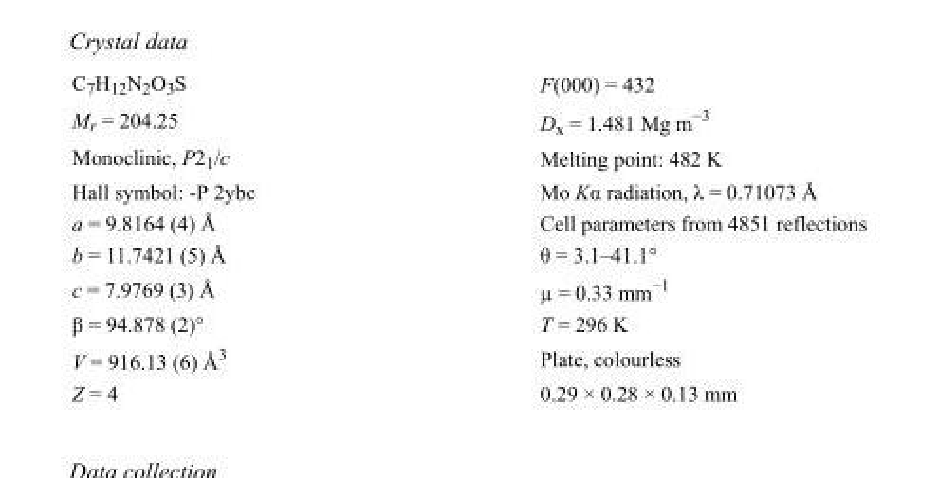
<table><tbody><tr><td>C<sub>7</sub>H<sub>12</sub>N<sub>2</sub>O<sub>3</sub>S</td><td>F(000) = 432</td></tr><tr><td>M<sub>r</sub> = 204.25</td><td>D<sub>x</sub> = 1.481 Mg m<sup>−3</sup></td></tr><tr><td>Monoclinic, P2<sub>1</sub>/c</td><td>Melting point: 482 K</td></tr><tr><td>Hall symbol: -P 2ybc</td><td>Mo Kα radiation, λ = 0.71073 Å</td></tr><tr><td>a = 9.8164 (4) Å</td><td>Cell parameters from 4851 reflections</td></tr><tr><td>b = 11.7421 (5) Å</td><td>θ = 3.1–41.1°</td></tr><tr><td>c = 7.9769 (3) Å</td><td>µ = 0.33 mm<sup>−1</sup></td></tr><tr><td>β = 94.878 (2)°</td><td>T = 296 K</td></tr><tr><td>V = 916.13 (6) Å<sup>3</sup></td><td>Plate, colourless</td></tr><tr><td>Z = 4</td><td>0.29 × 0.28 × 0.13 mm</td></tr></tbody></table>